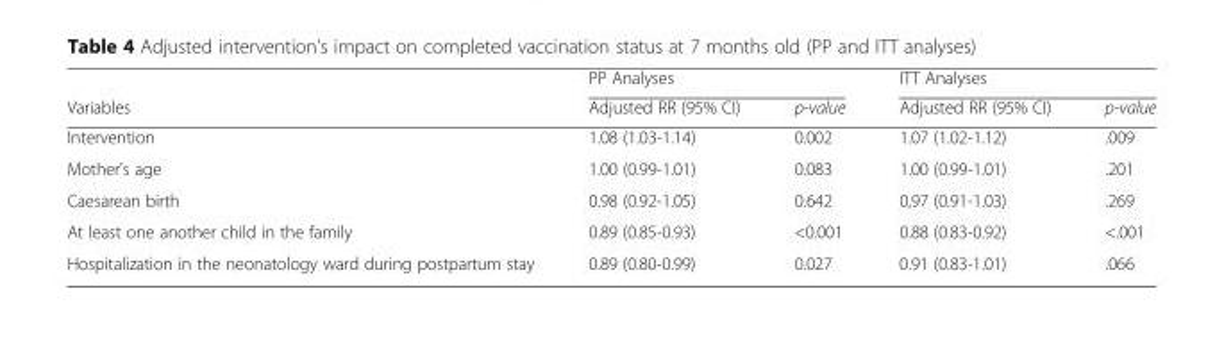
<table><thead><tr><td rowspan="2">Variables</td><td colspan="2">PP Analyses</td><td colspan="2">ITT Analyses</td></tr><tr><td>Adjusted RR (95% CI)</td><td>p-value</td><td>Adjusted RR (95% CI)</td><td>p-value</td></tr></thead><tbody><tr><td>Intervention</td><td>1.08 (1.03-1.14)</td><td>0.002</td><td>1.07 (1.02-1.12)</td><td>.009</td></tr><tr><td>Mother&#x27;s age</td><td>1.00 (0.99-1.01)</td><td>0.083</td><td>1.00 (0.99-1.01)</td><td>.201</td></tr><tr><td>Caesarean birth</td><td>0.98 (0.92-1.05)</td><td>0.642</td><td>0,97 (0.91-1.03)</td><td>.269</td></tr><tr><td>At least one another child in the family</td><td>0.89 (0.85-0.93)</td><td>&lt;0.001</td><td>0.88 (0.83-0.92)</td><td>&lt;.001</td></tr><tr><td>Hospitalization in the neonatology ward during postpartum stay</td><td>0.89 (0.80-0.99)</td><td>0.027</td><td>0.91 (0.83-1.01)</td><td>.066</td></tr></tbody></table>